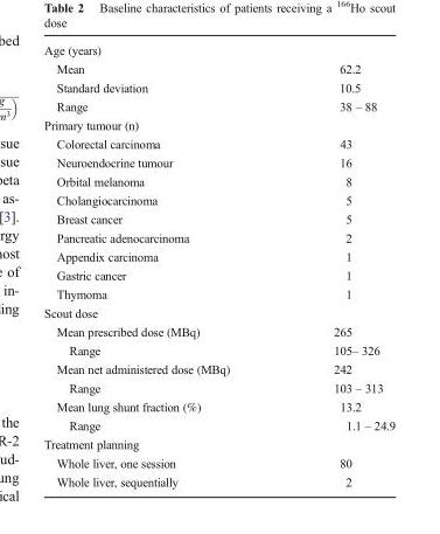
<table><tbody><tr><td colspan="2">Age (years)</td></tr><tr><td>Mean</td><td>62.2</td></tr><tr><td>Standard deviation</td><td>10.5</td></tr><tr><td>Range</td><td>38 – 88</td></tr><tr><td colspan="2">Primary tumour (n)</td></tr><tr><td>Colorectal carcinoma</td><td>43</td></tr><tr><td>Neuroendocrine tumour</td><td>16</td></tr><tr><td>Orbital melanoma</td><td>8</td></tr><tr><td>Cholangiocarcinoma</td><td>5</td></tr><tr><td>Breast cancer</td><td>5</td></tr><tr><td>Pancreatic adenocarcinoma</td><td>2</td></tr><tr><td>Appendix carcinoma</td><td>1</td></tr><tr><td>Gastric cancer</td><td>1</td></tr><tr><td>Thymoma</td><td>1</td></tr><tr><td colspan="2">Scout dose</td></tr><tr><td>Mean prescribed dose (MBq)</td><td>265</td></tr><tr><td>Range</td><td>105– 326</td></tr><tr><td>Mean net administered dose (MBq)</td><td>242</td></tr><tr><td>Range</td><td>103 – 313</td></tr><tr><td>Mean lung shunt fraction (%)</td><td>13.2</td></tr><tr><td>Range</td><td>1.1 – 24.9</td></tr><tr><td colspan="2">Treatment planning</td></tr><tr><td>Whole liver, one session</td><td>80</td></tr><tr><td>Whole liver, sequentially</td><td>2</td></tr></tbody></table>